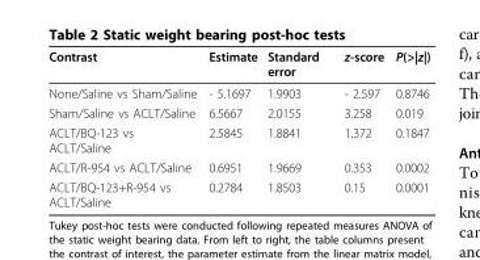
<table><thead><tr><td>Contrast</td><td>Estimate</td><td>Standard error</td><td>z-score</td><td>P(&gt;|z|)</td></tr></thead><tbody><tr><td>None/Saline vs Sham/Saline</td><td>- 5.1697</td><td>1.9903</td><td>- 2.597</td><td>0.8746</td></tr><tr><td>Sham/Saline vs ACLT/Saline</td><td>6.5667</td><td>2.0155</td><td>3.258</td><td>0.019</td></tr><tr><td>ACLT/BQ-123 vs ACLT/Saline</td><td>2.5845</td><td>1.8841</td><td>1.372</td><td>0.1847</td></tr><tr><td>ACLT/R-954 vs ACLT/Saline</td><td>0.6951</td><td>1.9669</td><td>0.353</td><td>0.0002</td></tr><tr><td>ACLT/BQ-123+R-954 vs ACLT/Saline</td><td>0.2784</td><td>1.8503</td><td>0.15</td><td>0.0001</td></tr></tbody></table>